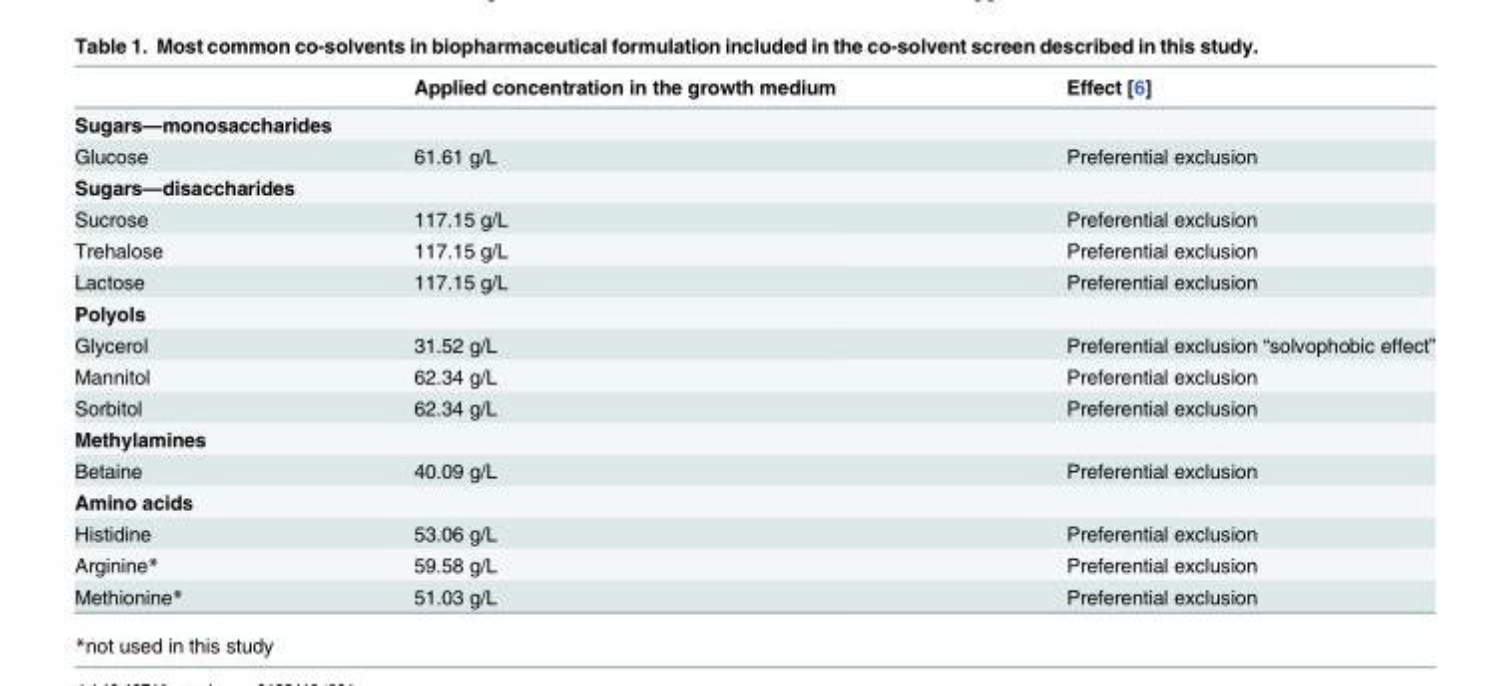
<table><thead><tr><td></td><td>Applied concentration in the growth medium</td><td>Effect [6]</td></tr></thead><tbody><tr><td colspan="3">Sugars—monosaccharides</td></tr><tr><td>Glucose</td><td>61.61 g/L</td><td>Preferential exclusion</td></tr><tr><td colspan="3">Sugars—disaccharides</td></tr><tr><td>Sucrose</td><td>117.15 g/L</td><td>Preferential exclusion</td></tr><tr><td>Trehalose</td><td>117.15 g/L</td><td>Preferential exclusion</td></tr><tr><td>Lactose</td><td>117.15 g/L</td><td>Preferential exclusion</td></tr><tr><td colspan="3">Polyols</td></tr><tr><td>Glycerol</td><td>31.52 g/L</td><td>Preferential exclusion “solvophobic effect”</td></tr><tr><td>Mannitol</td><td>62.34 g/L</td><td>Preferential exclusion</td></tr><tr><td>Sorbitol</td><td>62.34 g/L</td><td>Preferential exclusion</td></tr><tr><td colspan="3">Methylamines</td></tr><tr><td>Betaine</td><td>40.09 g/L</td><td>Preferential exclusion</td></tr><tr><td colspan="3">Amino acids</td></tr><tr><td>Histidine</td><td>53.06 g/L</td><td>Preferential exclusion</td></tr><tr><td>Arginine*</td><td>59.58 g/L</td><td>Preferential exclusion</td></tr><tr><td>Methionine*</td><td>51.03 g/L</td><td>Preferential exclusion</td></tr></tbody></table>